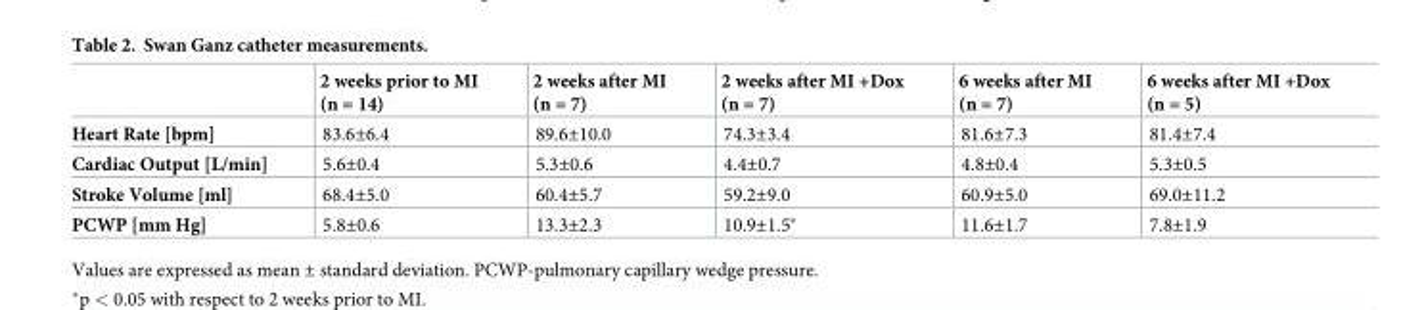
<table><thead><tr><td></td><td>2 weeks prior to MI (n = 14)</td><td>2 weeks after MI (n = 7)</td><td>2 weeks after MI +Dox (n = 7)</td><td>6 weeks after MI (n = 7)</td><td>6 weeks after MI +Dox (n = 5)</td></tr></thead><tbody><tr><td>Heart Rate [bpm]</td><td>83.6±6.4</td><td>89.6±10.0</td><td>74.3±3.4</td><td>81.6±7.3</td><td>81.4±7.4</td></tr><tr><td>Cardiac Output [L/min]</td><td>5.6±0.4</td><td>5.3±0.6</td><td>4.4±0.7</td><td>4.8±0.4</td><td>5.3±0.5</td></tr><tr><td>Stroke Volume [ml]</td><td>68.4±5.0</td><td>60.4±5.7</td><td>59.2±9.0</td><td>60.9±5.0</td><td>69.0±11.2</td></tr><tr><td>PCWP [mm Hg]</td><td>5.8±0.6</td><td>13.3±2.3</td><td>10.9±1.5*</td><td>11.6±1.7</td><td>7.8±1.9</td></tr></tbody></table>